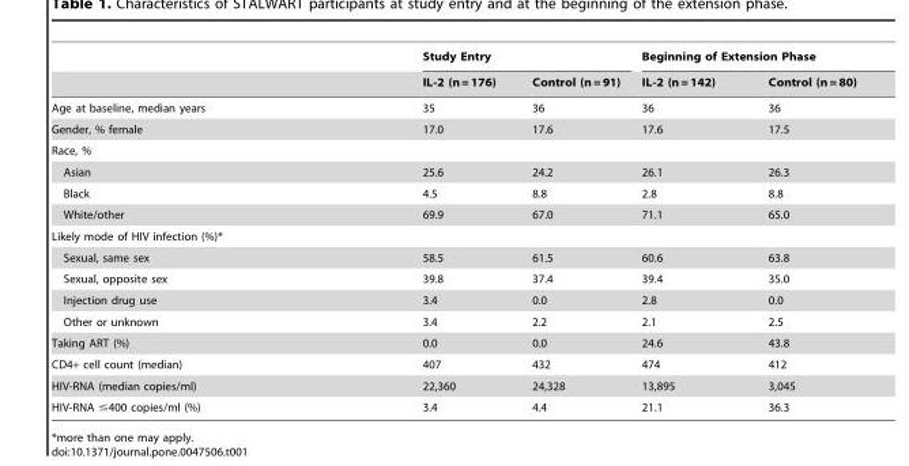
<table><thead><tr><td rowspan="2"></td><td colspan="2">Study Entry</td><td colspan="2">Beginning of Extension Phase</td></tr><tr><td>IL-2 (n = 176)</td><td>Control (n = 91)</td><td>IL-2 (n = 142)</td><td>Control (n = 80)</td></tr></thead><tbody><tr><td>Age at baseline, median years</td><td>35</td><td>36</td><td>36</td><td>36</td></tr><tr><td>Gender, % female</td><td>17.0</td><td>17.6</td><td>17.6</td><td>17.5</td></tr><tr><td colspan="5">Race, %</td></tr><tr><td>Asian</td><td>25.6</td><td>24.2</td><td>26.1</td><td>26.3</td></tr><tr><td>Black</td><td>4.5</td><td>8.8</td><td>2.8</td><td>8.8</td></tr><tr><td>White/other</td><td>69.9</td><td>67.0</td><td>71.1</td><td>65.0</td></tr><tr><td colspan="5">Likely mode of HIV infection (%)*</td></tr><tr><td>Sexual, same sex</td><td>58.5</td><td>61.5</td><td>60.6</td><td>63.8</td></tr><tr><td>Sexual, opposite sex</td><td>39.8</td><td>37.4</td><td>39.4</td><td>35.0</td></tr><tr><td>Injection drug use</td><td>3.4</td><td>0.0</td><td>2.8</td><td>0.0</td></tr><tr><td>Other or unknown</td><td>3.4</td><td>2.2</td><td>2.1</td><td>2.5</td></tr><tr><td>Taking ART (%)</td><td>0.0</td><td>0.0</td><td>24.6</td><td>43.8</td></tr><tr><td>CD4+ cell count (median)</td><td>407</td><td>432</td><td>474</td><td>412</td></tr><tr><td>HIV-RNA (median copies/ml)</td><td>22,360</td><td>24,328</td><td>13,895</td><td>3,045</td></tr><tr><td>HIV-RNA ≤400 copies/ml (%)</td><td>3.4</td><td>4.4</td><td>21.1</td><td>36.3</td></tr></tbody></table>